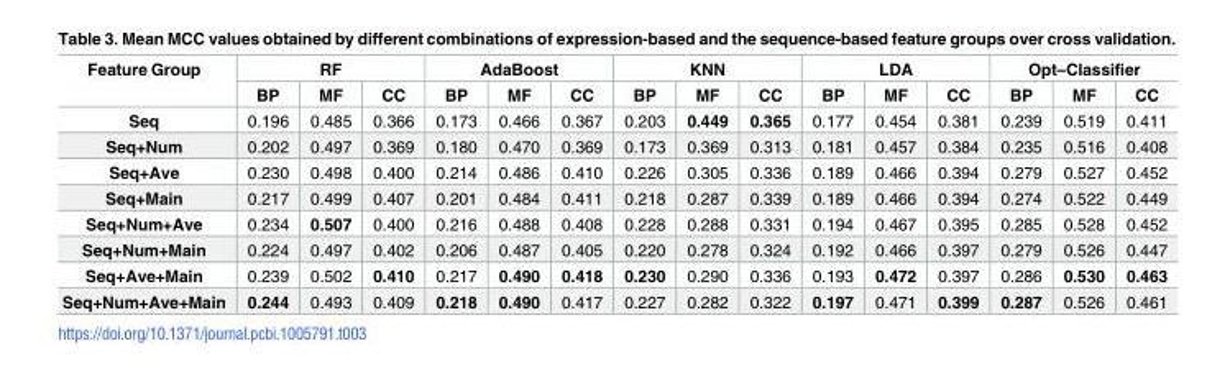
<table><thead><tr><td rowspan="2">Feature Group</td><td colspan="3">RF</td><td colspan="3">AdaBoost</td><td colspan="3">KNN</td><td colspan="3">LDA</td><td colspan="3">Opt–Classifier</td></tr><tr><td>BP</td><td>MF</td><td>CC</td><td>BP</td><td>MF</td><td>CC</td><td>BP</td><td>MF</td><td>CC</td><td>BP</td><td>MF</td><td>CC</td><td>BP</td><td>MF</td><td>CC</td></tr></thead><tbody><tr><td>Seq</td><td>0.196</td><td>0.485</td><td>0.366</td><td>0.173</td><td>0.466</td><td>0.367</td><td>0.203</td><td>0.449</td><td>0.365</td><td>0.177</td><td>0.454</td><td>0.381</td><td>0.239</td><td>0.519</td><td>0.411</td></tr><tr><td>Seq+Num</td><td>0.202</td><td>0.497</td><td>0.369</td><td>0.180</td><td>0.470</td><td>0.369</td><td>0.173</td><td>0.369</td><td>0.313</td><td>0.181</td><td>0.457</td><td>0.384</td><td>0.235</td><td>0.516</td><td>0.408</td></tr><tr><td>Seq+Ave</td><td>0.230</td><td>0.498</td><td>0.400</td><td>0.214</td><td>0.486</td><td>0.410</td><td>0.226</td><td>0.305</td><td>0.336</td><td>0.189</td><td>0.466</td><td>0.394</td><td>0.279</td><td>0.527</td><td>0.452</td></tr><tr><td>Seq+Main</td><td>0.217</td><td>0.499</td><td>0.407</td><td>0.201</td><td>0.484</td><td>0.411</td><td>0.218</td><td>0.287</td><td>0.339</td><td>0.189</td><td>0.466</td><td>0.394</td><td>0.274</td><td>0.522</td><td>0.449</td></tr><tr><td>Seq+Num+Ave</td><td>0.234</td><td>0.507</td><td>0.400</td><td>0.216</td><td>0.488</td><td>0.408</td><td>0.228</td><td>0.288</td><td>0.331</td><td>0.194</td><td>0.467</td><td>0.395</td><td>0.285</td><td>0.528</td><td>0.452</td></tr><tr><td>Seq+Num+Main</td><td>0.224</td><td>0.497</td><td>0.402</td><td>0.206</td><td>0.487</td><td>0.405</td><td>0.220</td><td>0.278</td><td>0.324</td><td>0.192</td><td>0.466</td><td>0.397</td><td>0.279</td><td>0.526</td><td>0.447</td></tr><tr><td>Seq+Ave+Main</td><td>0.239</td><td>0.502</td><td>0.410</td><td>0.217</td><td>0.490</td><td>0.418</td><td>0.230</td><td>0.290</td><td>0.336</td><td>0.193</td><td>0.472</td><td>0.397</td><td>0.286</td><td>0.530</td><td>0.463</td></tr><tr><td>Seq+Num+Ave+Main</td><td>0.244</td><td>0.493</td><td>0.409</td><td>0.218</td><td>0.490</td><td>0.417</td><td>0.227</td><td>0.282</td><td>0.322</td><td>0.197</td><td>0.471</td><td>0.399</td><td>0.287</td><td>0.526</td><td>0.461</td></tr></tbody></table>